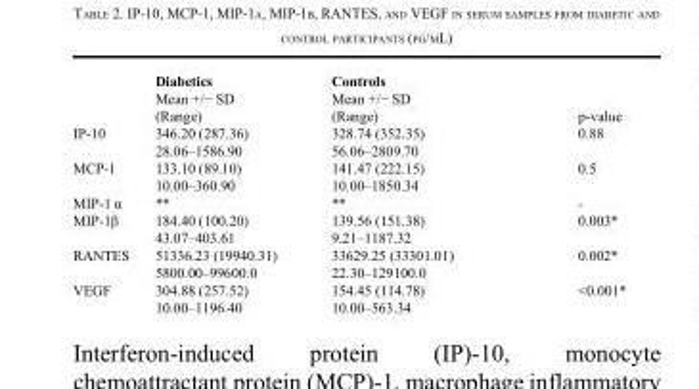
<table><thead><tr><td></td><td>Diabetics</td><td>Controls</td><td></td></tr></thead><tbody><tr><td></td><td>Mean +/− SD (Range)</td><td>Mean +/− SD (Range)</td><td>p-value</td></tr><tr><td rowspan="2">IP-10</td><td>346.20 (287.36)</td><td>328.74 (352.35)</td><td>0.88</td></tr><tr><td>28.06–1586.90</td><td>56.06–2809.70</td><td></td></tr><tr><td rowspan="2">MCP-1</td><td>133.10 (89.10)</td><td>141.47 (222.15)</td><td>0.5</td></tr><tr><td>10.00–360.90</td><td>10.00–1850.34</td><td></td></tr><tr><td>MIP-1 α</td><td>**</td><td>**</td><td>-</td></tr><tr><td rowspan="2">MIP-1β</td><td>184.40 (100.20)</td><td>139.56 (151.38)</td><td>0.003*</td></tr><tr><td>43.07–403.61</td><td>9.21–1187.32</td><td></td></tr><tr><td rowspan="2">RANTES</td><td>51336.23 (19940.31)</td><td>33629.25 (33301.01)</td><td>0.002*</td></tr><tr><td>5800.00–99600.0</td><td>22.30–129100.0</td><td></td></tr><tr><td rowspan="2">VEGF</td><td>304.88 (257.52)</td><td>154.45 (114.78)</td><td>&lt;0.001*</td></tr><tr><td>10.00–1196.40</td><td>10.00–563.34</td><td></td></tr></tbody></table>